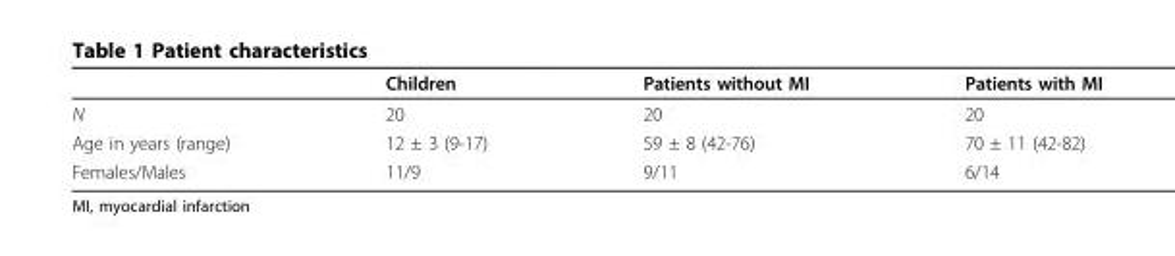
<table><thead><tr><td></td><td>Children</td><td>Patients without MI</td><td>Patients with MI</td></tr></thead><tbody><tr><td>N</td><td>20</td><td>20</td><td>20</td></tr><tr><td>Age in years (range)</td><td>12 ± 3 (9-17)</td><td>59 ± 8 (42-76)</td><td>70 ± 11 (42-82)</td></tr><tr><td>Females/Males</td><td>11/9</td><td>9/11</td><td>6/14</td></tr></tbody></table>